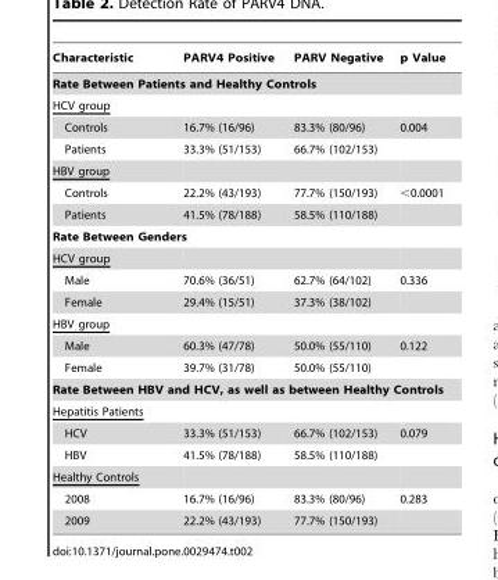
<table><thead><tr><td>Characteristic</td><td>PARV4 Positive</td><td>PARV Negative</td><td>p Value</td></tr></thead><tbody><tr><td colspan="4">Rate Between Patients and Healthy Controls</td></tr><tr><td colspan="4">HCV group</td></tr><tr><td>Controls</td><td>16.7% (16/96)</td><td>83.3% (80/96)</td><td>0.004</td></tr><tr><td>Patients</td><td>33.3% (51/153)</td><td>66.7% (102/153)</td><td></td></tr><tr><td colspan="4">HBV group</td></tr><tr><td>Controls</td><td>22.2% (43/193)</td><td>77.7% (150/193)</td><td>&lt;0.0001</td></tr><tr><td>Patients</td><td>41.5% (78/188)</td><td>58.5% (110/188)</td><td></td></tr><tr><td colspan="4">Rate Between Genders</td></tr><tr><td colspan="4">HCV group</td></tr><tr><td>Male</td><td>70.6% (36/51)</td><td>62.7% (64/102)</td><td>0.336</td></tr><tr><td>Female</td><td>29.4% (15/51)</td><td>37.3% (38/102)</td><td></td></tr><tr><td colspan="4">HBV group</td></tr><tr><td>Male</td><td>60.3% (47/78)</td><td>50.0% (55/110)</td><td>0.122</td></tr><tr><td>Female</td><td>39.7% (31/78)</td><td>50.0% (55/110)</td><td></td></tr><tr><td colspan="4">Rate Between HBV and HCV, as well as between Healthy Controls</td></tr><tr><td colspan="4">Hepatitis Patients</td></tr><tr><td>HCV</td><td>33.3% (51/153)</td><td>66.7% (102/153)</td><td>0.079</td></tr><tr><td>HBV</td><td>41.5% (78/188)</td><td>58.5% (110/188)</td><td></td></tr><tr><td colspan="4">Healthy Controls</td></tr><tr><td>2008</td><td>16.7% (16/96)</td><td>83.3% (80/96)</td><td>0.283</td></tr><tr><td>2009</td><td>22.2% (43/193)</td><td>77.7% (150/193)</td><td></td></tr></tbody></table>